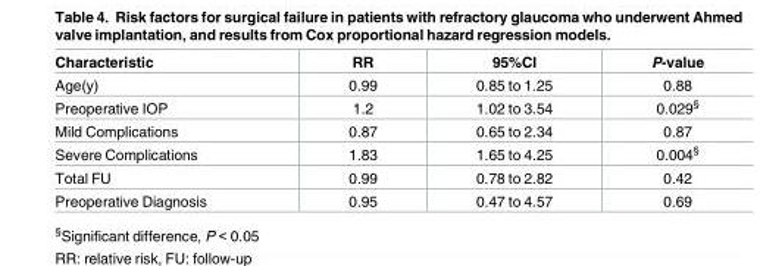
<table><thead><tr><td>Characteristic</td><td>RR</td><td>95%CI</td><td>P-value</td></tr></thead><tbody><tr><td>Age(y)</td><td>0.99</td><td>0.85 to 1.25</td><td>0.88</td></tr><tr><td>Preoperative IOP</td><td>1.2</td><td>1.02 to 3.54</td><td>0.029<sup>§</sup></td></tr><tr><td>Mild Complications</td><td>0.87</td><td>0.65 to 2.34</td><td>0.87</td></tr><tr><td>Severe Complications</td><td>1.83</td><td>1.65 to 4.25</td><td>0.004<sup>§</sup></td></tr><tr><td>Total FU</td><td>0.99</td><td>0.78 to 2.82</td><td>0.42</td></tr><tr><td>Preoperative Diagnosis</td><td>0.95</td><td>0.47 to 4.57</td><td>0.69</td></tr></tbody></table>